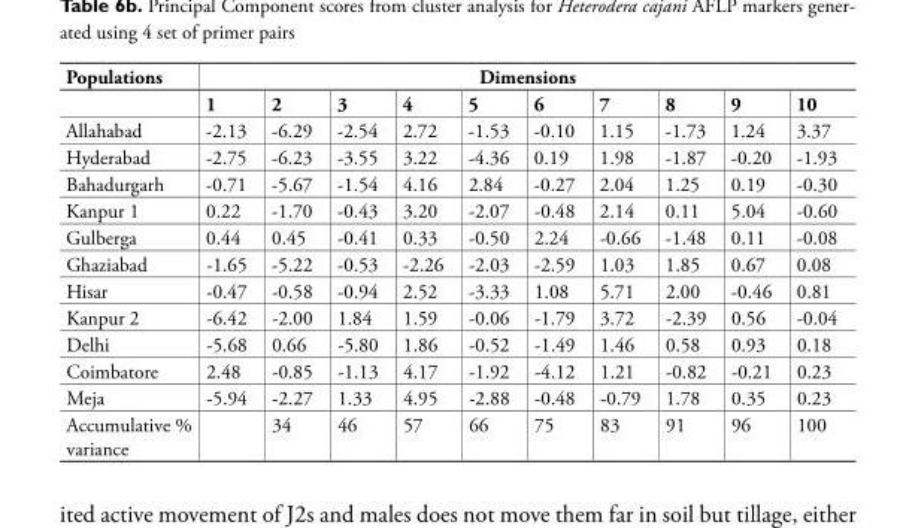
<table><thead><tr><td rowspan="2">Populations</td><td colspan="10">Dimensions</td></tr><tr><td>1</td><td>2</td><td>3</td><td>4</td><td>5</td><td>6</td><td>7</td><td>8</td><td>9</td><td>10</td></tr></thead><tbody><tr><td>Allahabad</td><td>-2.13</td><td>-6.29</td><td>-2.54</td><td>2.72</td><td>-1.53</td><td>-0.10</td><td>1.15</td><td>-1.73</td><td>1.24</td><td>3.37</td></tr><tr><td>Hyderabad</td><td>-2.75</td><td>-6.23</td><td>-3.55</td><td>3.22</td><td>-4.36</td><td>0.19</td><td>1.98</td><td>-1.87</td><td>-0.20</td><td>-1.93</td></tr><tr><td>Bahadurgarh</td><td>-0.71</td><td>-5.67</td><td>-1.54</td><td>4.16</td><td>2.84</td><td>-0.27</td><td>2.04</td><td>1.25</td><td>0.19</td><td>-0.30</td></tr><tr><td>Kanpur 1</td><td>0.22</td><td>-1.70</td><td>-0.43</td><td>3.20</td><td>-2.07</td><td>-0.48</td><td>2.14</td><td>0.11</td><td>5.04</td><td>-0.60</td></tr><tr><td>Gulberga</td><td>0.44</td><td>0.45</td><td>-0.41</td><td>0.33</td><td>-0.50</td><td>2.24</td><td>-0.66</td><td>-1.48</td><td>0.11</td><td>-0.08</td></tr><tr><td>Ghaziabad</td><td>-1.65</td><td>-5.22</td><td>-0.53</td><td>-2.26</td><td>-2.03</td><td>-2.59</td><td>1.03</td><td>1.85</td><td>0.67</td><td>0.08</td></tr><tr><td>Hisar</td><td>-0.47</td><td>-0.58</td><td>-0.94</td><td>2.52</td><td>-3.33</td><td>1.08</td><td>5.71</td><td>2.00</td><td>-0.46</td><td>0.81</td></tr><tr><td>Kanpur 2</td><td>-6.42</td><td>-2.00</td><td>1.84</td><td>1.59</td><td>-0.06</td><td>-1.79</td><td>3.72</td><td>-2.39</td><td>0.56</td><td>-0.04</td></tr><tr><td>Delhi</td><td>-5.68</td><td>0.66</td><td>-5.80</td><td>1.86</td><td>-0.52</td><td>-1.49</td><td>1.46</td><td>0.58</td><td>0.93</td><td>0.18</td></tr><tr><td>Coimbatore</td><td>2.48</td><td>-0.85</td><td>-1.13</td><td>4.17</td><td>-1.92</td><td>-4.12</td><td>1.21</td><td>-0.82</td><td>-0.21</td><td>0.23</td></tr><tr><td>Meja</td><td>-5.94</td><td>-2.27</td><td>1.33</td><td>4.95</td><td>-2.88</td><td>-0.48</td><td>-0.79</td><td>1.78</td><td>0.35</td><td>0.23</td></tr><tr><td>Accumulative % variance</td><td></td><td>34</td><td>46</td><td>57</td><td>66</td><td>75</td><td>83</td><td>91</td><td>96</td><td>100</td></tr></tbody></table>